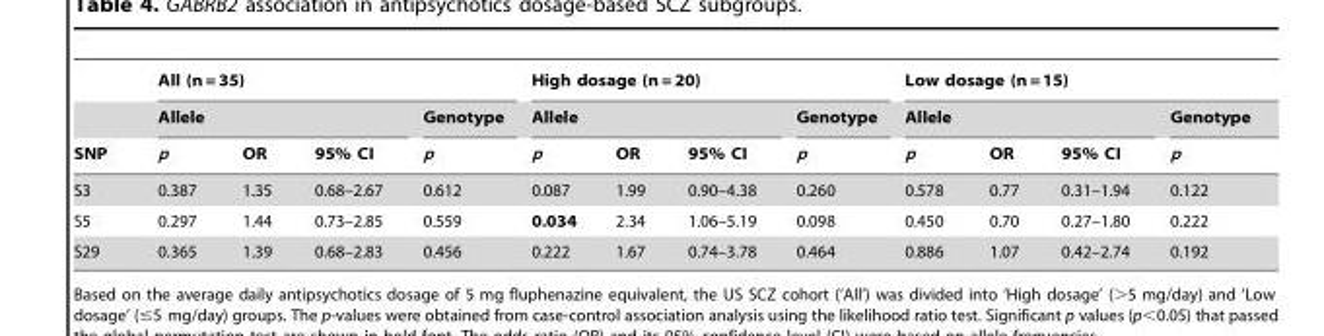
<table><thead><tr><td rowspan="3">SNP</td><td colspan="4">All (n = 35)</td><td colspan="4">High dosage (n = 20)</td><td colspan="4">Low dosage (n = 15)</td></tr><tr><td colspan="3">Allele</td><td rowspan="2">Genotype p</td><td colspan="3">Allele</td><td rowspan="2">Genotype p</td><td colspan="3">Allele</td><td rowspan="2">Genotype p</td></tr><tr><td>p</td><td>OR</td><td>95% CI</td><td>p</td><td>OR</td><td>95% CI</td><td>p</td><td>OR</td><td>95% CI</td></tr></thead><tbody><tr><td>S3</td><td>0.387</td><td>1.35</td><td>0.68–2.67</td><td>0.612</td><td>0.087</td><td>1.99</td><td>0.90–4.38</td><td>0.260</td><td>0.578</td><td>0.77</td><td>0.31–1.94</td><td>0.122</td></tr><tr><td>S5</td><td>0.297</td><td>1.44</td><td>0.73–2.85</td><td>0.559</td><td>0.034</td><td>2.34</td><td>1.06–5.19</td><td>0.098</td><td>0.450</td><td>0.70</td><td>0.27–1.80</td><td>0.222</td></tr><tr><td>S29</td><td>0.365</td><td>1.39</td><td>0.68–2.83</td><td>0.456</td><td>0.222</td><td>1.67</td><td>0.74–3.78</td><td>0.464</td><td>0.886</td><td>1.07</td><td>0.42–2.74</td><td>0.192</td></tr></tbody></table>